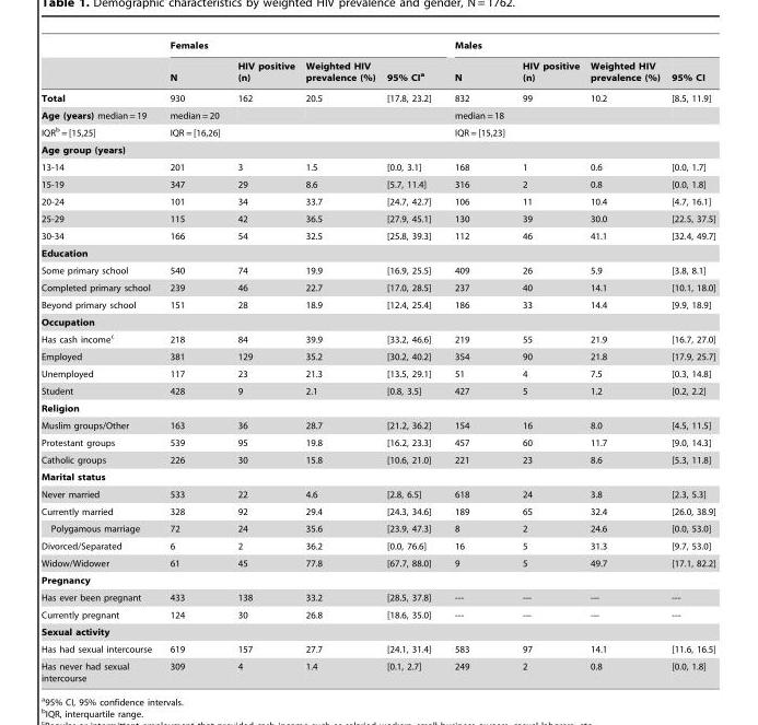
<table><thead><tr><td rowspan="2"></td><td colspan="4">Females</td><td colspan="4">Males</td></tr><tr><td>N</td><td>HIV positive (n)</td><td>Weighted HIV prevalence (%)</td><td>95% CI<sup>a</sup></td><td>N</td><td>HIV positive (n)</td><td>Weighted HIV prevalence (%)</td><td>95% CI</td></tr></thead><tbody><tr><td>Total</td><td>930</td><td>162</td><td>20.5</td><td>[17.8, 23.2]</td><td>832</td><td>99</td><td>10.2</td><td>[8.5, 11.9]</td></tr><tr><td>Age (years) median = 19</td><td>median = 20</td><td></td><td></td><td></td><td>median = 18</td><td></td><td></td><td></td></tr><tr><td>IQRb = [15,25]</td><td>IQR = [16,26]</td><td></td><td></td><td></td><td>IQR = [15,23]</td><td></td><td></td><td></td></tr><tr><td colspan="9">Age group (years)</td></tr><tr><td>13-14</td><td>201</td><td>3</td><td>1.5</td><td>[0.0, 3.1]</td><td>168</td><td>1</td><td>0.6</td><td>[0.0, 1.7]</td></tr><tr><td>15-19</td><td>347</td><td>29</td><td>8.6</td><td>[5.7, 11.4]</td><td>316</td><td>2</td><td>0.8</td><td>[0.0, 1.8]</td></tr><tr><td>20-24</td><td>101</td><td>34</td><td>33.7</td><td>[24.7, 42.7]</td><td>106</td><td>11</td><td>10.4</td><td>[4.7, 16.1]</td></tr><tr><td>25-29</td><td>115</td><td>42</td><td>36.5</td><td>[27.9, 45.1]</td><td>130</td><td>39</td><td>30.0</td><td>[22.5, 37.5]</td></tr><tr><td>30-34</td><td>166</td><td>54</td><td>32.5</td><td>[25.8, 39.3]</td><td>112</td><td>46</td><td>41.1</td><td>[32.4, 49.7]</td></tr><tr><td colspan="9">Education</td></tr><tr><td>Some primary school</td><td>540</td><td>74</td><td>19.9</td><td>[16.9, 25.5]</td><td>409</td><td>26</td><td>5.9</td><td>[3.8, 8.1]</td></tr><tr><td>Completed primary school</td><td>239</td><td>46</td><td>22.7</td><td>[17.0, 28.5]</td><td>237</td><td>40</td><td>14.1</td><td>[10.1, 18.0]</td></tr><tr><td>Beyond primary school</td><td>151</td><td>28</td><td>18.9</td><td>[12.4, 25.4]</td><td>186</td><td>33</td><td>14.4</td><td>[9.9, 18.9]</td></tr><tr><td colspan="9">Occupation</td></tr><tr><td>Has cash income<sup>c</sup></td><td>218</td><td>84</td><td>39.9</td><td>[33.2, 46.6]</td><td>219</td><td>55</td><td>21.9</td><td>[16.7, 27.0]</td></tr><tr><td>Employed</td><td>381</td><td>129</td><td>35.2</td><td>[30.2, 40.2]</td><td>354</td><td>90</td><td>21.8</td><td>[17.9, 25.7]</td></tr><tr><td>Unemployed</td><td>117</td><td>23</td><td>21.3</td><td>[13.5, 29.1]</td><td>51</td><td>4</td><td>7.5</td><td>[0.3, 14.8]</td></tr><tr><td>Student</td><td>428</td><td>9</td><td>2.1</td><td>[0.8, 3.5]</td><td>427</td><td>5</td><td>1.2</td><td>[0.2, 2.2]</td></tr><tr><td colspan="9">Religion</td></tr><tr><td>Muslim groups/Other</td><td>163</td><td>36</td><td>28.7</td><td>[21.2, 36.2]</td><td>154</td><td>16</td><td>8.0</td><td>[4.5, 11.5]</td></tr><tr><td>Protestant groups</td><td>539</td><td>95</td><td>19.8</td><td>[16.2, 23.3]</td><td>457</td><td>60</td><td>11.7</td><td>[9.0, 14.3]</td></tr><tr><td>Catholic groups</td><td>226</td><td>30</td><td>15.8</td><td>[10.6, 21.0]</td><td>221</td><td>23</td><td>8.6</td><td>[5.3, 11.8]</td></tr><tr><td colspan="9">Marital status</td></tr><tr><td>Never married</td><td>533</td><td>22</td><td>4.6</td><td>[2.8, 6.5]</td><td>618</td><td>24</td><td>3.8</td><td>[2.3, 5.3]</td></tr><tr><td>Currently married</td><td>328</td><td>92</td><td>29.4</td><td>[24.3, 34.6]</td><td>189</td><td>65</td><td>32.4</td><td>[26.0, 38.9]</td></tr><tr><td>Polygamous marriage</td><td>72</td><td>24</td><td>35.6</td><td>[23.9, 47.3]</td><td>8</td><td>2</td><td>24.6</td><td>[0.0, 53.0]</td></tr><tr><td>Divorced/Separated</td><td>6</td><td>2</td><td>36.2</td><td>[0.0, 76.6]</td><td>16</td><td>5</td><td>31.3</td><td>[9.7, 53.0]</td></tr><tr><td>Widow/Widower</td><td>61</td><td>45</td><td>77.8</td><td>[67.7, 88.0]</td><td>9</td><td>5</td><td>49.7</td><td>[17.1, 82.2]</td></tr><tr><td colspan="9">Pregnancy</td></tr><tr><td>Has ever been pregnant</td><td>433</td><td>138</td><td>33.2</td><td>[28.5, 37.8]</td><td>---</td><td>---</td><td>---</td><td>---</td></tr><tr><td>Currently pregnant</td><td>124</td><td>30</td><td>26.8</td><td>[18.6, 35.0]</td><td>---</td><td>---</td><td>---</td><td>---</td></tr><tr><td colspan="9">Sexual activity</td></tr><tr><td>Has had sexual intercourse</td><td>619</td><td>157</td><td>27.7</td><td>[24.1, 31.4]</td><td>583</td><td>97</td><td>14.1</td><td>[11.6, 16.5]</td></tr><tr><td>Has never had sexual intercourse</td><td>309</td><td>4</td><td>1.4</td><td>[0.1, 2.7]</td><td>249</td><td>2</td><td>0.8</td><td>[0.0, 1.8]</td></tr></tbody></table>